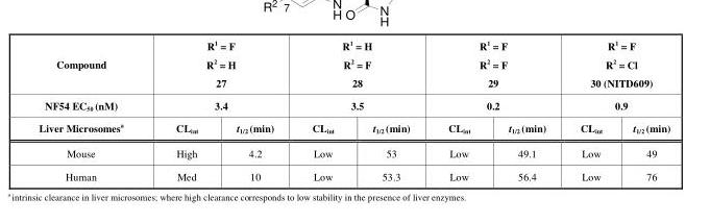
<table><thead><tr><td rowspan="3">Compound NF54 EC<sub>50</sub> (nM) Liver Microsomes<sup>a</sup></td><td rowspan="2" colspan="2">R<sup>1</sup> = F R<sup>2</sup> = H 27 3.4</td><td rowspan="2" colspan="2">R<sup>1</sup> = H R<sup>2</sup> = F 28 3.5</td><td rowspan="2" colspan="2">R<sup>1</sup> = F R<sup>2</sup> = F 29 0.2</td><td rowspan="2" colspan="2">R<sup>1</sup> = F R<sup>2</sup> = Cl 30 (NITD609) 0.9</td></tr><tr></tr><tr><td>CL<sub>int</sub></td><td>t<sub>1/2</sub> (min)</td><td>CL<sub>int</sub></td><td>t<sub>1/2</sub> (min)</td><td>CL<sub>int</sub></td><td>t<sub>1/2</sub> (min)</td><td>CL<sub>int</sub></td><td>t<sub>1/2</sub> (min)</td></tr></thead><tbody><tr><td>Mouse</td><td>High</td><td>4.2</td><td>Low</td><td>53</td><td>Low</td><td>49.1</td><td>Low</td><td>49</td></tr><tr><td>Human</td><td>Med</td><td>10</td><td>Low</td><td>53.3</td><td>Low</td><td>56.4</td><td>Low</td><td>76</td></tr></tbody></table>